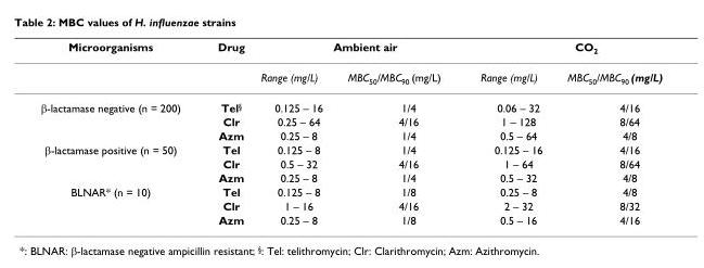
<table><thead><tr><td rowspan="2">Microorganisms</td><td rowspan="2">Drug</td><td colspan="2">Ambient air</td><td colspan="2">CO<sub>2</sub></td></tr><tr><td>Range (mg/L)</td><td>MBC<sub>50</sub>/MBC<sub>90</sub> (mg/L)</td><td>Range (mg/L)</td><td>MBC<sub>50</sub>/MBC<sub>90</sub> (mg/L)</td></tr></thead><tbody><tr><td rowspan="3">β-lactamase negative (n = 200)</td><td>Tel<sup>§</sup></td><td>0.125 – 16</td><td>1/4</td><td>0.06 – 32</td><td>4/16</td></tr><tr><td>Clr</td><td>0.25 – 64</td><td>4/16</td><td>1 – 128</td><td>8/64</td></tr><tr><td>Azm</td><td>0.25 – 8</td><td>1/4</td><td>0.5 – 64</td><td>4/8</td></tr><tr><td rowspan="3">β-lactamase positive (n = 50)</td><td>Tel</td><td>0.125 – 8</td><td>1/4</td><td>0.125 – 16</td><td>4/16</td></tr><tr><td>Clr</td><td>0.5 – 32</td><td>4/16</td><td>1 – 64</td><td>8/64</td></tr><tr><td>Azm</td><td>0.25 – 8</td><td>1/4</td><td>0.5 – 32</td><td>4/8</td></tr><tr><td rowspan="3">BLNAR* (n = 10)</td><td>Tel</td><td>0.125 – 8</td><td>1/8</td><td>0.25 – 8</td><td>4/8</td></tr><tr><td>Clr</td><td>1 – 16</td><td>4/16</td><td>2 – 32</td><td>8/32</td></tr><tr><td>Azm</td><td>0.25 – 8</td><td>1/8</td><td>0.5 – 16</td><td>4/16</td></tr></tbody></table>